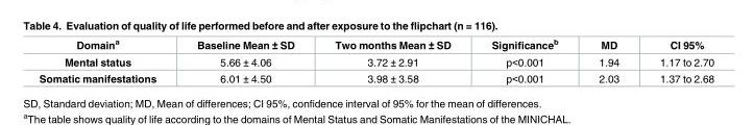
<table><thead><tr><td>Domain<sup>a</sup></td><td>Baseline Mean ± SD</td><td>Two months Mean ± SD</td><td>Significance<sup>b</sup></td><td>MD</td><td>CI 95%</td></tr></thead><tbody><tr><td>Mental status</td><td>5.66 ± 4.06</td><td>3.72 ± 2.91</td><td>p&lt;0.001</td><td>1.94</td><td>1.17 to 2.70</td></tr><tr><td>Somatic manifestations</td><td>6.01 ± 4.50</td><td>3.98 ± 3.58</td><td>p&lt;0.001</td><td>2.03</td><td>1.37 to 2.68</td></tr></tbody></table>